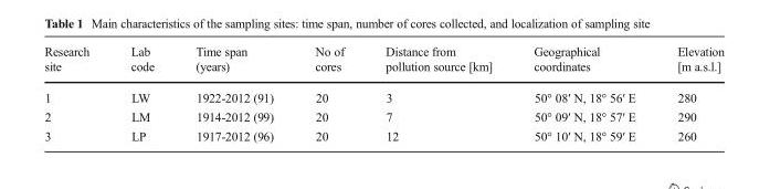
<table><thead><tr><td>Research site</td><td>Lab code</td><td>Time span (years)</td><td>No of cores</td><td>Distance from pollution source [km]</td><td>Geographical coordinates</td><td>Elevation [m a.s.l.]</td></tr></thead><tbody><tr><td>1</td><td>LW</td><td>1922-2012 (91)</td><td>20</td><td>3</td><td>50° 08′ N, 18° 56′ E</td><td>280</td></tr><tr><td>2</td><td>LM</td><td>1914-2012 (99)</td><td>20</td><td>7</td><td>50° 09′ N, 18° 57′ E</td><td>290</td></tr><tr><td>3</td><td>LP</td><td>1917-2012 (96)</td><td>20</td><td>12</td><td>50° 10′ N, 18° 59′ E</td><td>260</td></tr></tbody></table>